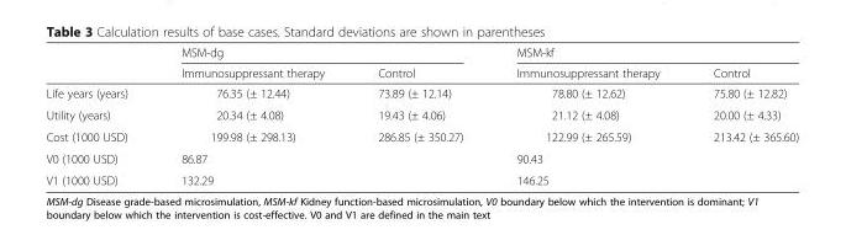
<table><thead><tr><td rowspan="2"></td><td colspan="2">MSM-dg</td><td colspan="2">MSM-kf</td></tr><tr><td>Immunosuppressant therapy</td><td>Control</td><td>Immunosuppressant therapy</td><td>Control</td></tr></thead><tbody><tr><td>Life years (years)</td><td>76.35 (± 12.44)</td><td>73.89 (± 12.14)</td><td>78.80 (± 12.62)</td><td>75.80 (± 12.82)</td></tr><tr><td>Utility (years)</td><td>20.34 (± 4.08)</td><td>19.43 (± 4.06)</td><td>21.12 (± 4.08)</td><td>20.00 (± 4.33)</td></tr><tr><td>Cost (1000 USD)</td><td>199.98 (± 298.13)</td><td>286.85 (± 350.27)</td><td>122.99 (± 265.59)</td><td>213.42 (± 365.60)</td></tr><tr><td>V0 (1000 USD)</td><td colspan="2">86.87</td><td colspan="2">90.43</td></tr><tr><td>V1 (1000 USD)</td><td colspan="2">132.29</td><td colspan="2">146.25</td></tr></tbody></table>